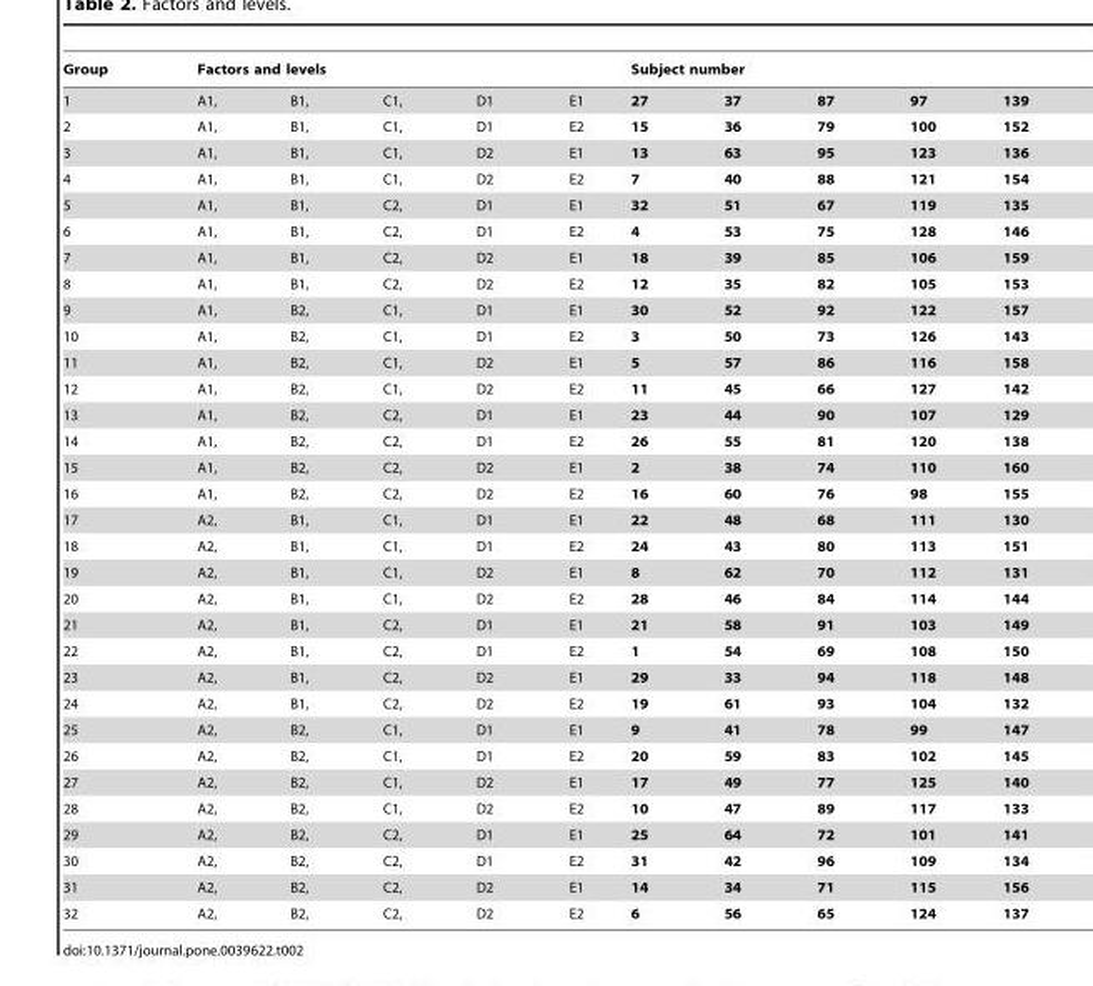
<table><thead><tr><td rowspan="2">Group 1</td><td colspan="5">Factors and levels</td><td colspan="5">Subject number</td></tr><tr><td>A1,</td><td>B1,</td><td>C1,</td><td>D1</td><td>E1</td><td>27</td><td>37</td><td>87</td><td>97</td><td>139</td></tr></thead><tbody><tr><td>2</td><td>A1,</td><td>B1,</td><td>C1,</td><td>D1</td><td>E2</td><td>15</td><td>36</td><td>79</td><td>100</td><td>152</td></tr><tr><td>3</td><td>A1,</td><td>B1,</td><td>C1,</td><td>D2</td><td>E1</td><td>13</td><td>63</td><td>95</td><td>123</td><td>136</td></tr><tr><td>4</td><td>A1,</td><td>B1,</td><td>C1,</td><td>D2</td><td>E2</td><td>7</td><td>40</td><td>88</td><td>121</td><td>154</td></tr><tr><td>5</td><td>A1,</td><td>B1,</td><td>C2,</td><td>D1</td><td>E1</td><td>32</td><td>51</td><td>67</td><td>119</td><td>135</td></tr><tr><td>6</td><td>A1,</td><td>B1,</td><td>C2,</td><td>D1</td><td>E2</td><td>4</td><td>53</td><td>75</td><td>128</td><td>146</td></tr><tr><td>7</td><td>A1,</td><td>B1,</td><td>C2,</td><td>D2</td><td>E1</td><td>18</td><td>39</td><td>85</td><td>106</td><td>159</td></tr><tr><td>8</td><td>A1,</td><td>B1,</td><td>C2,</td><td>D2</td><td>E2</td><td>12</td><td>35</td><td>82</td><td>105</td><td>153</td></tr><tr><td>9</td><td>A1,</td><td>B2,</td><td>C1,</td><td>D1</td><td>E1</td><td>30</td><td>52</td><td>92</td><td>122</td><td>157</td></tr><tr><td>10</td><td>A1,</td><td>B2,</td><td>C1,</td><td>D1</td><td>E2</td><td>3</td><td>50</td><td>73</td><td>126</td><td>143</td></tr><tr><td>11</td><td>A1,</td><td>B2,</td><td>C1,</td><td>D2</td><td>E1</td><td>5</td><td>57</td><td>86</td><td>116</td><td>158</td></tr><tr><td>12</td><td>A1,</td><td>B2,</td><td>C1,</td><td>D2</td><td>E2</td><td>11</td><td>45</td><td>66</td><td>127</td><td>142</td></tr><tr><td>13</td><td>A1,</td><td>B2,</td><td>C2,</td><td>D1</td><td>E1</td><td>23</td><td>44</td><td>90</td><td>107</td><td>129</td></tr><tr><td>14</td><td>A1,</td><td>B2,</td><td>C2,</td><td>D1</td><td>E2</td><td>26</td><td>55</td><td>81</td><td>120</td><td>138</td></tr><tr><td>15</td><td>A1,</td><td>B2,</td><td>C2,</td><td>D2</td><td>E1</td><td>2</td><td>38</td><td>74</td><td>110</td><td>160</td></tr><tr><td>16</td><td>A1,</td><td>B2,</td><td>C2,</td><td>D2</td><td>E2</td><td>16</td><td>60</td><td>76</td><td>98</td><td>155</td></tr><tr><td>17</td><td>A2,</td><td>B1,</td><td>C1,</td><td>D1</td><td>E1</td><td>22</td><td>48</td><td>68</td><td>111</td><td>130</td></tr><tr><td>18</td><td>A2,</td><td>B1,</td><td>C1,</td><td>D1</td><td>E2</td><td>24</td><td>43</td><td>80</td><td>113</td><td>151</td></tr><tr><td>19</td><td>A2,</td><td>B1,</td><td>C1,</td><td>D2</td><td>E1</td><td>8</td><td>62</td><td>70</td><td>112</td><td>131</td></tr><tr><td>20</td><td>A2,</td><td>B1,</td><td>C1,</td><td>D2</td><td>E2</td><td>28</td><td>46</td><td>84</td><td>114</td><td>144</td></tr><tr><td>21</td><td>A2,</td><td>B1,</td><td>C2,</td><td>D1</td><td>E1</td><td>21</td><td>58</td><td>91</td><td>103</td><td>149</td></tr><tr><td>22</td><td>A2,</td><td>B1,</td><td>C2,</td><td>D1</td><td>E2</td><td>1</td><td>54</td><td>69</td><td>108</td><td>150</td></tr><tr><td>23</td><td>A2,</td><td>B1,</td><td>C2,</td><td>D2</td><td>E1</td><td>29</td><td>33</td><td>94</td><td>118</td><td>148</td></tr><tr><td>24</td><td>A2,</td><td>B1,</td><td>C2,</td><td>D2</td><td>E2</td><td>19</td><td>61</td><td>93</td><td>104</td><td>132</td></tr><tr><td>25</td><td>A2,</td><td>B2,</td><td>C1,</td><td>D1</td><td>E1</td><td>9</td><td>41</td><td>78</td><td>99</td><td>147</td></tr><tr><td>26</td><td>A2,</td><td>B2,</td><td>C1,</td><td>D1</td><td>E2</td><td>20</td><td>59</td><td>83</td><td>102</td><td>145</td></tr><tr><td>27</td><td>A2,</td><td>B2,</td><td>C1,</td><td>D2</td><td>E1</td><td>17</td><td>49</td><td>77</td><td>125</td><td>140</td></tr><tr><td>28</td><td>A2,</td><td>B2,</td><td>C1,</td><td>D2</td><td>E2</td><td>10</td><td>47</td><td>89</td><td>117</td><td>133</td></tr><tr><td>29</td><td>A2,</td><td>B2,</td><td>C2,</td><td>D1</td><td>E1</td><td>25</td><td>64</td><td>72</td><td>101</td><td>141</td></tr><tr><td>30</td><td>A2,</td><td>B2,</td><td>C2,</td><td>D1</td><td>E2</td><td>31</td><td>42</td><td>96</td><td>109</td><td>134</td></tr><tr><td>31</td><td>A2,</td><td>B2,</td><td>C2,</td><td>D2</td><td>E1</td><td>14</td><td>34</td><td>71</td><td>115</td><td>156</td></tr><tr><td>32</td><td>A2,</td><td>B2,</td><td>C2,</td><td>D2</td><td>E2</td><td>6</td><td>56</td><td>65</td><td>124</td><td>137</td></tr></tbody></table>